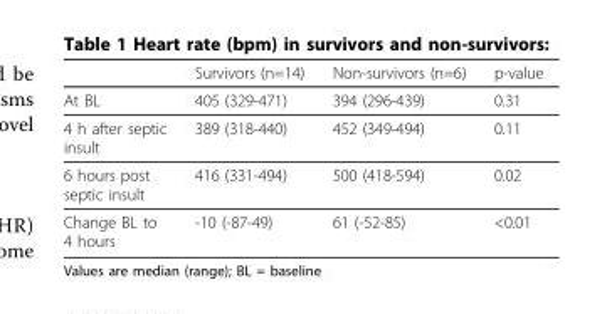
<table><thead><tr><td></td><td>Survivors (n=14)</td><td>Non-survivors (n=6)</td><td>p-value</td></tr></thead><tbody><tr><td>At BL</td><td>405 (329-471)</td><td>394 (296-439)</td><td>0.31</td></tr><tr><td>4 h after septic insult</td><td>389 (318-440)</td><td>452 (349-494)</td><td>0.11</td></tr><tr><td>6 hours post septic insult</td><td>416 (331-494)</td><td>500 (418-594)</td><td>0.02</td></tr><tr><td>Change BL to 4 hours</td><td>-10 (-87-49)</td><td>61 (-52-85)</td><td>&lt;0.01</td></tr></tbody></table>